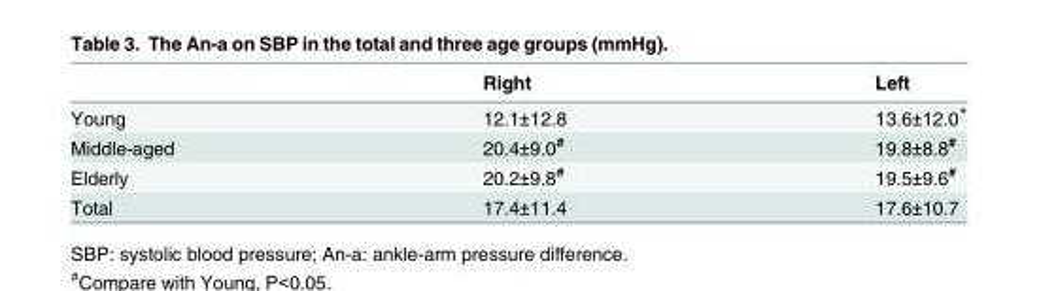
<table><thead><tr><td></td><td>Right</td><td>Left</td></tr></thead><tbody><tr><td>Young</td><td>12.1±12.8</td><td>13.6±12.0*</td></tr><tr><td>Middle-aged</td><td>20.4±9.0<sup>#</sup></td><td>19.8±8.8<sup>#</sup></td></tr><tr><td>Elderly</td><td>20.2±9.8<sup>#</sup></td><td>19.5±9.6<sup>#</sup></td></tr><tr><td>Total</td><td>17.4±11.4</td><td>17.6±10.7</td></tr></tbody></table>